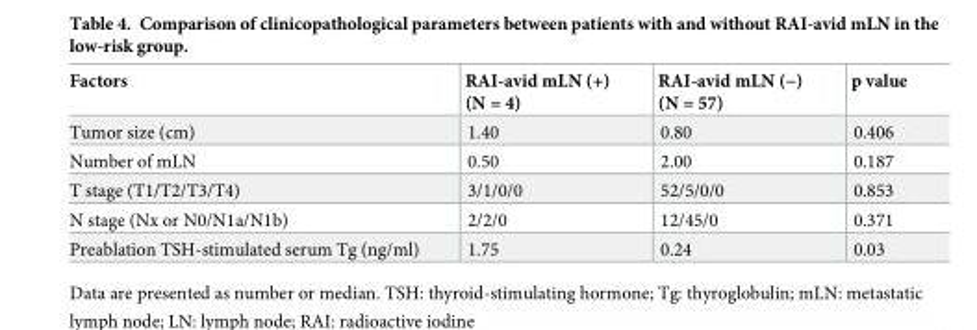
<table><thead><tr><td>Factors</td><td>RAI-avid mLN (+) (N = 4)</td><td>RAI-avid mLN (−) (N = 57)</td><td>p value</td></tr></thead><tbody><tr><td>Tumor size (cm)</td><td>1.40</td><td>0.80</td><td>0.406</td></tr><tr><td>Number of mLN</td><td>0.50</td><td>2.00</td><td>0.187</td></tr><tr><td>T stage (T1/T2/T3/T4)</td><td>3/1/0/0</td><td>52/5/0/0</td><td>0.853</td></tr><tr><td>N stage (Nx or N0/N1a/N1b)</td><td>2/2/0</td><td>12/45/0</td><td>0.371</td></tr><tr><td>Preablation TSH-stimulated serum Tg (ng/ml)</td><td>1.75</td><td>0.24</td><td>0.03</td></tr></tbody></table>